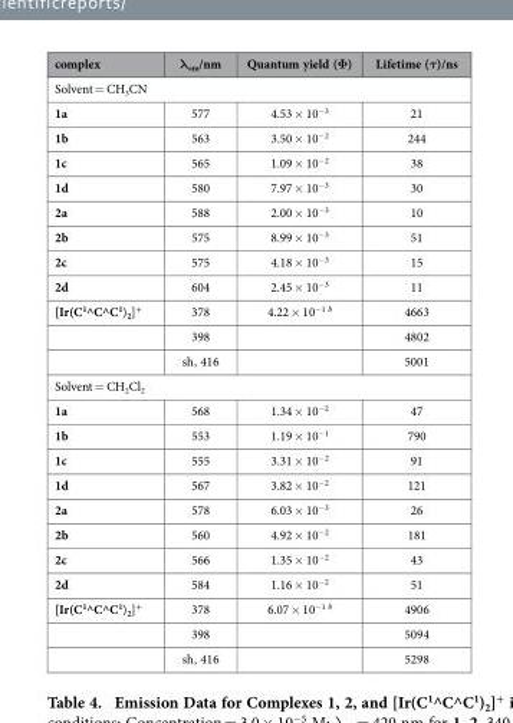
<table><thead><tr><td>complex</td><td>λ<sub>em</sub>/nm</td><td>Quantum yield (Φ)</td><td>Lifetime (τ)/ns</td></tr></thead><tbody><tr><td colspan="4">Solvent = CH<sub>3</sub>CN</td></tr><tr><td>1a</td><td>577</td><td>4.53 × 10<sup>−3</sup></td><td>21</td></tr><tr><td>1b</td><td>563</td><td>3.50 × 10<sup>−2</sup></td><td>244</td></tr><tr><td>1c</td><td>565</td><td>1.09 × 10<sup>−2</sup></td><td>38</td></tr><tr><td>1d</td><td>580</td><td>7.97 × 10<sup>−3</sup></td><td>30</td></tr><tr><td>2a</td><td>588</td><td>2.00 × 10<sup>−3</sup></td><td>10</td></tr><tr><td>2b</td><td>575</td><td>8.99 × 10<sup>−3</sup></td><td>51</td></tr><tr><td>2c</td><td>575</td><td>4.18 × 10<sup>−3</sup></td><td>15</td></tr><tr><td>2d</td><td>604</td><td>2.45 × 10<sup>−3</sup></td><td>11</td></tr><tr><td rowspan="3">[Ir(C<sup>1</sup>^C^C<sup>1</sup>)<sub>2</sub>]<sup>+</sup></td><td>378</td><td>4.22 × 10<sup>−1 b</sup></td><td>4663</td></tr><tr><td>398</td><td></td><td>4802</td></tr><tr><td>sh, 416</td><td></td><td>5001</td></tr><tr><td colspan="4">Solvent = CH<sub>2</sub>Cl<sub>2</sub></td></tr><tr><td>1a</td><td>568</td><td>1.34 × 10<sup>−2</sup></td><td>47</td></tr><tr><td>1b</td><td>553</td><td>1.19 × 10<sup>−1</sup></td><td>790</td></tr><tr><td>1c</td><td>555</td><td>3.31 × 10<sup>−2</sup></td><td>91</td></tr><tr><td>1d</td><td>567</td><td>3.82 × 10<sup>−2</sup></td><td>121</td></tr><tr><td>2a</td><td>578</td><td>6.03 × 10<sup>−3</sup></td><td>26</td></tr><tr><td>2b</td><td>560</td><td>4.92 × 10<sup>−2</sup></td><td>181</td></tr><tr><td>2c</td><td>566</td><td>1.35 × 10<sup>−2</sup></td><td>43</td></tr><tr><td>2d</td><td>584</td><td>1.16 × 10<sup>−2</sup></td><td>51</td></tr><tr><td rowspan="3">[Ir(C<sup>1</sup>^C^C<sup>1</sup>)<sub>2</sub>]<sup>+</sup></td><td>378</td><td>6.07 × 10<sup>−1 b</sup></td><td>4906</td></tr><tr><td>398</td><td></td><td>5094</td></tr><tr><td>sh, 416</td><td></td><td>5298</td></tr></tbody></table>